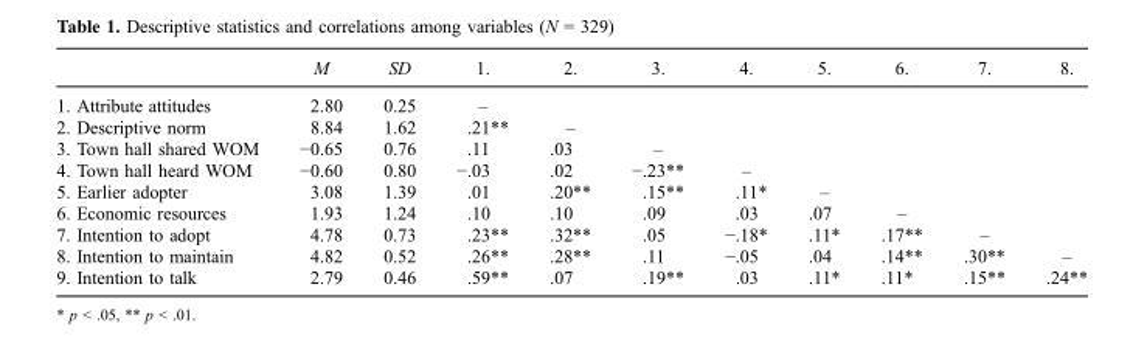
<table><thead><tr><td></td><td>M</td><td>SD</td><td>1.</td><td>2.</td><td>3.</td><td>4.</td><td>5.</td><td>6.</td><td>7.</td><td>8.</td></tr></thead><tbody><tr><td>1. Attribute attitudes</td><td>2.80</td><td>0.25</td><td>–</td><td></td><td></td><td></td><td></td><td></td><td></td><td></td></tr><tr><td>2. Descriptive norm</td><td>8.84</td><td>1.62</td><td>.21**</td><td>–</td><td></td><td></td><td></td><td></td><td></td><td></td></tr><tr><td>3. Town hall shared WOM</td><td>−0.65</td><td>0.76</td><td>.11</td><td>.03</td><td>–</td><td></td><td></td><td></td><td></td><td></td></tr><tr><td>4. Town hall heard WOM</td><td>−0.60</td><td>0.80</td><td>−.03</td><td>.02</td><td>−.23**</td><td>–</td><td></td><td></td><td></td><td></td></tr><tr><td>5. Earlier adopter</td><td>3.08</td><td>1.39</td><td>.01</td><td>.20**</td><td>.15**</td><td>.11*</td><td>–</td><td></td><td></td><td></td></tr><tr><td>6. Economic resources</td><td>1.93</td><td>1.24</td><td>.10</td><td>.10</td><td>.09</td><td>.03</td><td>.07</td><td>–</td><td></td><td></td></tr><tr><td>7. Intention to adopt</td><td>4.78</td><td>0.73</td><td>.23**</td><td>.32**</td><td>.05</td><td>−.18*</td><td>.11*</td><td>.17**</td><td>–</td><td></td></tr><tr><td>8. Intention to maintain</td><td>4.82</td><td>0.52</td><td>.26**</td><td>.28**</td><td>.11</td><td>−.05</td><td>.04</td><td>.14**</td><td>.30**</td><td>–</td></tr><tr><td>9. Intention to talk</td><td>2.79</td><td>0.46</td><td>.59**</td><td>.07</td><td>.19**</td><td>.03</td><td>.11*</td><td>.11*</td><td>.15**</td><td>.24**</td></tr></tbody></table>